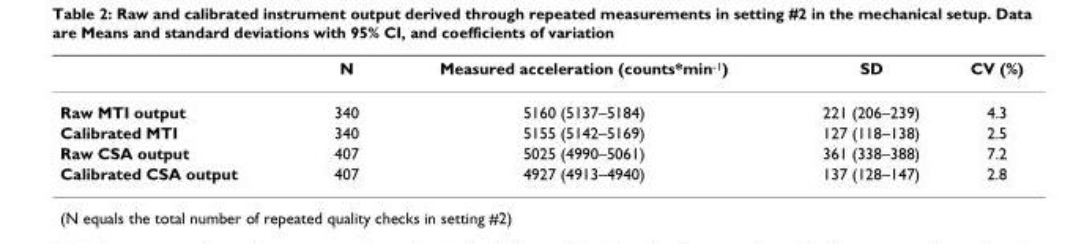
<table><thead><tr><td></td><td>N</td><td>Measured acceleration (counts*min<sup>-1</sup>)</td><td>SD</td><td>CV (%)</td></tr></thead><tbody><tr><td>Raw MTI output</td><td>340</td><td>5160 (5137–5184)</td><td>221 (206–239)</td><td>4.3</td></tr><tr><td>Calibrated MTI</td><td>340</td><td>5155 (5142–5169)</td><td>127 (118–138)</td><td>2.5</td></tr><tr><td>Raw CSA output</td><td>407</td><td>5025 (4990–5061)</td><td>361 (338–388)</td><td>7.2</td></tr><tr><td>Calibrated CSA output</td><td>407</td><td>4927 (4913–4940)</td><td>137 (128–147)</td><td>2.8</td></tr></tbody></table>